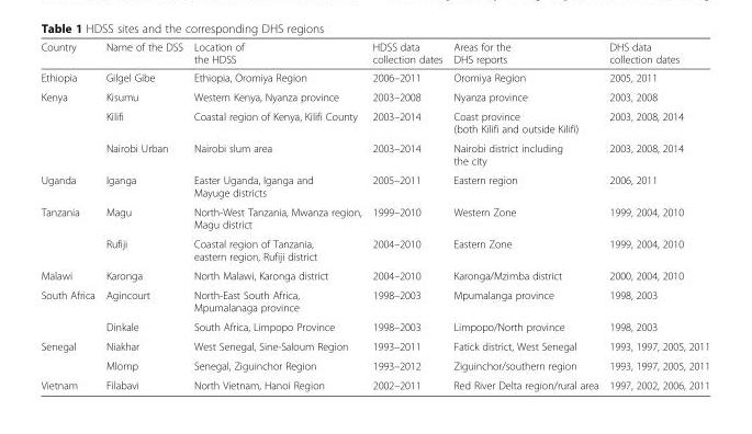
<table><thead><tr><td>Country</td><td>Name of the DSS</td><td>Location of the HDSS</td><td>HDSS data collection dates</td><td>Areas for the DHS reports</td><td>DHS data collection dates</td></tr></thead><tbody><tr><td>Ethiopia</td><td>Gilgel Gibe</td><td>Ethiopia, Oromiya Region</td><td>2006–2011</td><td>Oromiya Region</td><td>2005, 2011</td></tr><tr><td rowspan="3">Kenya</td><td>Kisumu</td><td>Western Kenya, Nyanza province</td><td>2003–2008</td><td>Nyanza province</td><td>2003, 2008</td></tr><tr><td>Kilifi</td><td>Coastal region of Kenya, Kilifi County</td><td>2003–2014</td><td>Coast province (both Kilifi and outside Kilifi)</td><td>2003, 2008, 2014</td></tr><tr><td>Nairobi Urban</td><td>Nairobi slum area</td><td>2003–2014</td><td>Nairobi district including the city</td><td>2003, 2008, 2014</td></tr><tr><td>Uganda</td><td>Iganga</td><td>Easter Uganda, Iganga and Mayuge districts</td><td>2005–2011</td><td>Eastern region</td><td>2006, 2011</td></tr><tr><td rowspan="2">Tanzania</td><td>Magu</td><td>North-West Tanzania, Mwanza region, Magu district</td><td>1999–2010</td><td>Western Zone</td><td>1999, 2004, 2010</td></tr><tr><td>Rufiji</td><td>Coastal region of Tanzania, eastern region, Rufiji district</td><td>2004–2010</td><td>Eastern Zone</td><td>1999, 2004, 2010</td></tr><tr><td>Malawi</td><td>Karonga</td><td>North Malawi, Karonga district</td><td>2004–2010</td><td>Karonga/Mzimba district</td><td>2000, 2004, 2010</td></tr><tr><td rowspan="2">South Africa</td><td>Agincourt</td><td>North-East South Africa, Mpumalanaga province</td><td>1998–2003</td><td>Mpumalanga province</td><td>1998, 2003</td></tr><tr><td>Dinkale</td><td>South Africa, Limpopo Province</td><td>1998–2003</td><td>Limpopo/North province</td><td>1998, 2003</td></tr><tr><td rowspan="2">Senegal</td><td>Niakhar</td><td>West Senegal, Sine-Saloum Region</td><td>1993–2011</td><td>Fatick district, West Senegal</td><td>1993, 1997, 2005, 2011</td></tr><tr><td>Mlomp</td><td>Senegal, Ziguinchor Region</td><td>1993–2012</td><td>Ziguinchor/southern region</td><td>1993, 1997, 2005, 2011</td></tr><tr><td>Vietnam</td><td>Filabavi</td><td>North Vietnam, Hanoi Region</td><td>2002–2011</td><td>Red River Delta region/rural area</td><td>1997, 2002, 2006, 2011</td></tr></tbody></table>